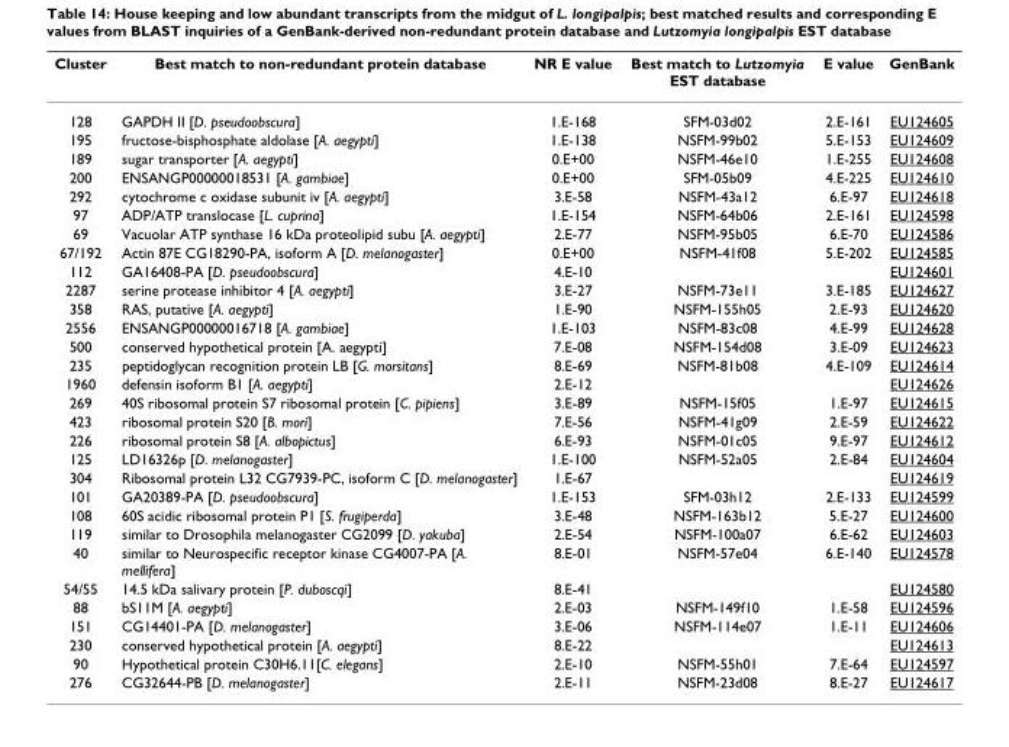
<table><thead><tr><td>Cluster</td><td>Best match to non-redundant protein database</td><td>NR E value</td><td>Best match to Lutzomyia EST database</td><td>E value</td><td>GenBank</td></tr></thead><tbody><tr><td>128</td><td>GAPDH II [D. pseudoobscura]</td><td>1.E-168</td><td>SFM-03d02</td><td>2.E-161</td><td>EU124605</td></tr><tr><td>195</td><td>fructose-bisphosphate aldolase [A. aegypti]</td><td>1.E-138</td><td>NSFM-99b02</td><td>5.E-153</td><td>EU124609</td></tr><tr><td>189</td><td>sugar transporter [A. aegypti]</td><td>0.E+00</td><td>NSFM-46e10</td><td>1.E-255</td><td>EU124608</td></tr><tr><td>200</td><td>ENSANGP00000018531 [A. gambiae]</td><td>0.E+00</td><td>SFM-05b09</td><td>4.E-225</td><td>EU124610</td></tr><tr><td>292</td><td>cytochrome c oxidase subunit iv [A. aegypti]</td><td>3.E-58</td><td>NSFM-43a12</td><td>6.E-97</td><td>EU124618</td></tr><tr><td>97</td><td>ADP/ATP translocase [L. cuprina]</td><td>1.E-154</td><td>NSFM-64b06</td><td>2.E-161</td><td>EU124598</td></tr><tr><td>69</td><td>Vacuolar ATP synthase 16 kDa proteolipid subu [A. aegypti]</td><td>2.E-77</td><td>NSFM-95b05</td><td>6.E-70</td><td>EU124586</td></tr><tr><td>67/192</td><td>Actin 87E CG18290-PA, isoform A [D. melanogaster]</td><td>0.E+00</td><td>NSFM-41f08</td><td>5.E-202</td><td>EU124585</td></tr><tr><td>112</td><td>GA16408-PA [D. pseudoobscura]</td><td>4.E-10</td><td></td><td></td><td>EU124601</td></tr><tr><td>2287</td><td>serine protease inhibitor 4 [A. aegypti]</td><td>3.E-27</td><td>NSFM-73e11</td><td>3.E-185</td><td>EU124627</td></tr><tr><td>358</td><td>RAS, putative [A. aegypti]</td><td>1.E-90</td><td>NSFM-155h05</td><td>2.E-93</td><td>EU124620</td></tr><tr><td>2556</td><td>ENSANGP00000016718 [A. gambiae]</td><td>1.E-103</td><td>NSFM-83c08</td><td>4.E-99</td><td>EU124628</td></tr><tr><td>500</td><td>conserved hypothetical protein [A. aegypti]</td><td>7.E-08</td><td>NSFM-154d08</td><td>3.E-09</td><td>EU124623</td></tr><tr><td>235</td><td>peptidoglycan recognition protein LB [G. morsitans]</td><td>8.E-69</td><td>NSFM-81b08</td><td>4.E-109</td><td>EU124614</td></tr><tr><td>1960</td><td>defensin isoform B1 [A. aegypti]</td><td>2.E-12</td><td></td><td></td><td>EU124626</td></tr><tr><td>269</td><td>40S ribosomal protein S7 ribosomal protein [C. pipiens]</td><td>3.E-89</td><td>NSFM-15f05</td><td>1.E-97</td><td>EU124615</td></tr><tr><td>423</td><td>ribosomal protein S20 [B. mori]</td><td>7.E-56</td><td>NSFM-41g09</td><td>2.E-59</td><td>EU124622</td></tr><tr><td>226</td><td>ribosomal protein S8 [A. albopictus]</td><td>6.E-93</td><td>NSFM-01c05</td><td>9.E-97</td><td>EU124612</td></tr><tr><td>125</td><td>LD16326p [D. melanogaster]</td><td>1.E-100</td><td>NSFM-52a05</td><td>2.E-84</td><td>EU124604</td></tr><tr><td>304</td><td>Ribosomal protein L32 CG7939-PC, isoform C [D. melanogaster]</td><td>1.E-67</td><td></td><td></td><td>EU124619</td></tr><tr><td>101</td><td>GA20389-PA [D. pseudoobscura]</td><td>1.E-153</td><td>SFM-03h12</td><td>2.E-133</td><td>EU124599</td></tr><tr><td>108</td><td>60S acidic ribosomal protein P1 [S. frugiperda]</td><td>3.E-48</td><td>NSFM-163b12</td><td>5.E-27</td><td>EU124600</td></tr><tr><td>119</td><td>similar to Drosophila melanogaster CG2099 [D. yakuba]</td><td>2.E-54</td><td>NSFM-100a07</td><td>6.E-62</td><td>EU124603</td></tr><tr><td>40</td><td>similar to Neurospecific receptor kinase CG4007-PA [A. mellifera]</td><td>8.E-01</td><td>NSFM-57e04</td><td>6.E-140</td><td>EU124578</td></tr><tr><td>54/55</td><td>14.5 kDa salivary protein [P. duboscqi]</td><td>8.E-41</td><td></td><td></td><td>EU124580</td></tr><tr><td>88</td><td>bS11M [A. aegypti]</td><td>2.E-03</td><td>NSFM-149f10</td><td>1.E-58</td><td>EU124596</td></tr><tr><td>151</td><td>CG14401-PA [D. melanogaster]</td><td>3.E-06</td><td>NSFM-114e07</td><td>1.E-11</td><td>EU124606</td></tr><tr><td>230</td><td>conserved hypothetical protein [A. aegypti]</td><td>8.E-22</td><td></td><td></td><td>EU124613</td></tr><tr><td>90</td><td>Hypothetical protein C30H6.11[C. elegans]</td><td>2.E-10</td><td>NSFM-55h01</td><td>7.E-64</td><td>EU124597</td></tr><tr><td>276</td><td>CG32644-PB [D. melanogaster]</td><td>2.E-11</td><td>NSFM-23d08</td><td>8.E-27</td><td>EU124617</td></tr></tbody></table>